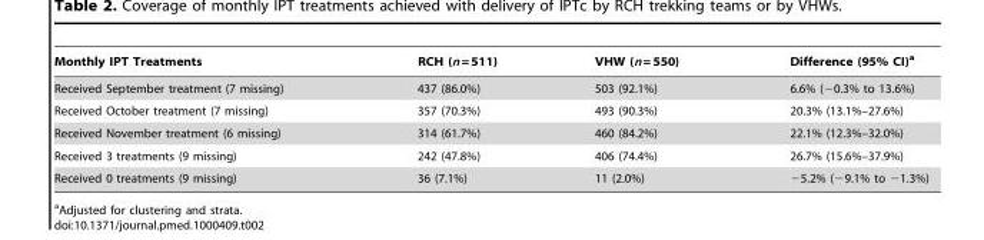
<table><thead><tr><td>Monthly IPT Treatments</td><td>RCH (n = 511)</td><td>VHW (n = 550)</td><td>Difference (95% CI)<sup>a</sup></td></tr></thead><tbody><tr><td>Received September treatment (7 missing)</td><td>437 (86.0%)</td><td>503 (92.1%)</td><td>6.6% (−0.3% to 13.6%)</td></tr><tr><td>Received October treatment (7 missing)</td><td>357 (70.3%)</td><td>493 (90.3%)</td><td>20.3% (13.1%–27.6%)</td></tr><tr><td>Received November treatment (6 missing)</td><td>314 (61.7%)</td><td>460 (84.2%)</td><td>22.1% (12.3%–32.0%)</td></tr><tr><td>Received 3 treatments (9 missing)</td><td>242 (47.8%)</td><td>406 (74.4%)</td><td>26.7% (15.6%–37.9%)</td></tr><tr><td>Received 0 treatments (9 missing)</td><td>36 (7.1%)</td><td>11 (2.0%)</td><td>−5.2% (−9.1% to −1.3%)</td></tr></tbody></table>